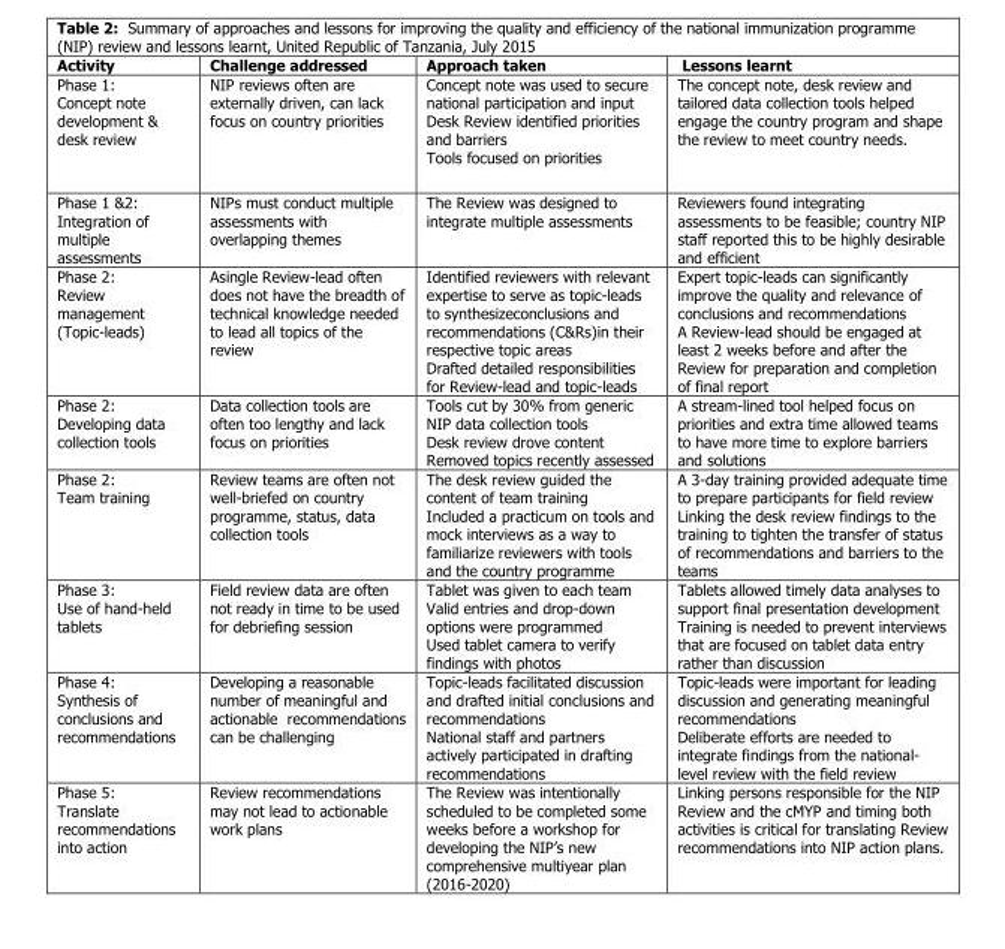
<table><thead><tr><td>Activity</td><td>Challenge addressed</td><td>Approach taken</td><td>Lessons learnt</td></tr></thead><tbody><tr><td>Phase 1: Concept note development &amp; desk review</td><td>NIP reviews often are externally driven, can lack focus on country priorities</td><td>Concept note was used to secure national participation and input Desk Review identified priorities and barriers Tools focused on priorities</td><td>The concept note, desk review and tailored data collection tools helped engage the country program and shape the review to meet country needs.</td></tr><tr><td>Phase 1 &amp;2: Integration of multiple assessments</td><td>NIPs must conduct multiple assessments with overlapping themes</td><td>The Review was designed to integrate multiple assessments</td><td>Reviewers found integrating assessments to be feasible; country NIP staff reported this to be highly desirable and efficient</td></tr><tr><td>Phase 2: Review management (Topic-leads)</td><td>Asingle Review-lead often does not have the breadth of technical knowledge needed to lead all topics of the review</td><td>Identified reviewers with relevant expertise to serve as topic-leads to synthesizeconclusions and recommendations (C&amp;Rs)in their respective topic areas Drafted detailed responsibilities for Review-lead and topic-leads</td><td>Expert topic-leads can significantly improve the quality and relevance of conclusions and recommendations A Review-lead should be engaged at least 2 weeks before and after the Review for preparation and completion of final report</td></tr><tr><td>Phase 2: Developing data collection tools</td><td>Data collection tools are often too lengthy and lack focus on priorities</td><td>Tools cut by 30% from generic NIP data collection tools Desk review drove content Removed topics recently assessed</td><td>A stream-lined tool helped focus on priorities and extra time allowed teams to have more time to explore barriers and solutions</td></tr><tr><td>Phase 2: Team training</td><td>Review teams are often not well-briefed on country programme, status, data collection tools</td><td>The desk review guided the content of team training Included a practicum on tools and mock interviews as a way to familiarize reviewers with tools and the country programme</td><td>A 3-day training provided adequate time to prepare participants for field review Linking the desk review findings to the training to tighten the transfer of status of recommendations and barriers to the teams</td></tr><tr><td>Phase 3: Use of hand-held tablets</td><td>Field review data are often not ready in time to be used for debriefing session</td><td>Tablet was given to each team Valid entries and drop-down options were programmed Used tablet camera to verify findings with photos</td><td>Tablets allowed timely data analyses to support final presentation development Training is needed to prevent interviews that are focused on tablet data entry rather than discussion</td></tr><tr><td>Phase 4: Synthesis of conclusions and recommendations</td><td>Developing a reasonable number of meaningful and actionable recommendations can be challenging</td><td>Topic-leads facilitated discussion and drafted initial conclusions and recommendations National staff and partners actively participated in drafting recommendations</td><td>Topic-leads were important for leading discussion and generating meaningful recommendations Deliberate efforts are needed to integrate findings from the national- level review with the field review</td></tr><tr><td>Phase 5: Translate recommendations into action</td><td>Review recommendations may not lead to actionable work plans</td><td>The Review was intentionally scheduled to be completed some weeks before a workshop for developing the NIP’s new comprehensive multiyear plan (2016-2020)</td><td>Linking persons responsible for the NIP Review and the cMYP and timing both activities is critical for translating Review recommendations into NIP action plans.</td></tr></tbody></table>